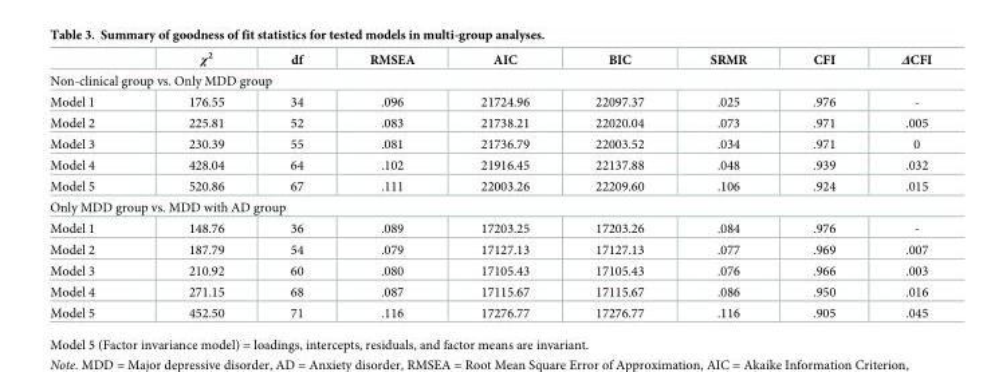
<table><thead><tr><td></td><td>χ<sup>2</sup></td><td>df</td><td>RMSEA</td><td>AIC</td><td>BIC</td><td>SRMR</td><td>CFI</td><td>ΔCFI</td></tr></thead><tbody><tr><td colspan="9">Non-clinical group vs. Only MDD group</td></tr><tr><td>Model 1</td><td>176.55</td><td>34</td><td>.096</td><td>21724.96</td><td>22097.37</td><td>.025</td><td>.976</td><td>-</td></tr><tr><td>Model 2</td><td>225.81</td><td>52</td><td>.083</td><td>21738.21</td><td>22020.04</td><td>.073</td><td>.971</td><td>.005</td></tr><tr><td>Model 3</td><td>230.39</td><td>55</td><td>.081</td><td>21736.79</td><td>22003.52</td><td>.034</td><td>.971</td><td>0</td></tr><tr><td>Model 4</td><td>428.04</td><td>64</td><td>.102</td><td>21916.45</td><td>22137.88</td><td>.048</td><td>.939</td><td>.032</td></tr><tr><td>Model 5</td><td>520.86</td><td>67</td><td>.111</td><td>22003.26</td><td>22209.60</td><td>.106</td><td>.924</td><td>.015</td></tr><tr><td colspan="9">Only MDD group vs. MDD with AD group</td></tr><tr><td>Model 1</td><td>148.76</td><td>36</td><td>.089</td><td>17203.25</td><td>17203.26</td><td>.084</td><td>.976</td><td>-</td></tr><tr><td>Model 2</td><td>187.79</td><td>54</td><td>.079</td><td>17127.13</td><td>17127.13</td><td>.077</td><td>.969</td><td>.007</td></tr><tr><td>Model 3</td><td>210.92</td><td>60</td><td>.080</td><td>17105.43</td><td>17105.43</td><td>.076</td><td>.966</td><td>.003</td></tr><tr><td>Model 4</td><td>271.15</td><td>68</td><td>.087</td><td>17115.67</td><td>17115.67</td><td>.086</td><td>.950</td><td>.016</td></tr><tr><td>Model 5</td><td>452.50</td><td>71</td><td>.116</td><td>17276.77</td><td>17276.77</td><td>.116</td><td>.905</td><td>.045</td></tr></tbody></table>